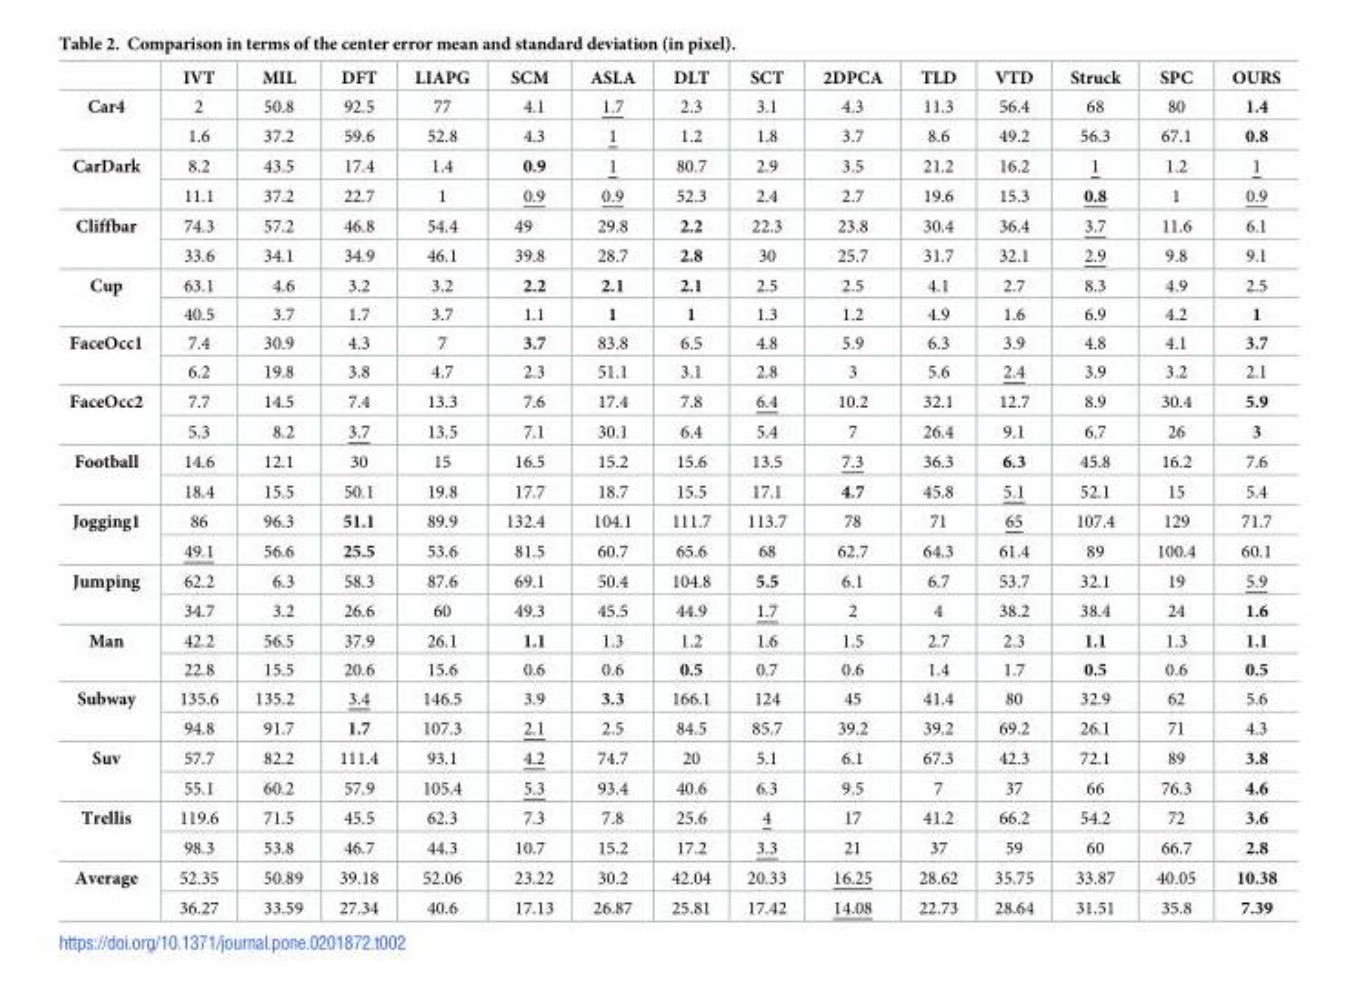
<table><thead><tr><td></td><td>IVT</td><td>MIL</td><td>DFT</td><td>LIAPG</td><td>SCM</td><td>ASLA</td><td>DLT</td><td>SCT</td><td>2DPCA</td><td>TLD</td><td>VTD</td><td>Struck</td><td>SPC</td><td>OURS</td></tr></thead><tbody><tr><td rowspan="2">Car4</td><td>2</td><td>50.8</td><td>92.5</td><td>77</td><td>4.1</td><td>1.7</td><td>2.3</td><td>3.1</td><td>4.3</td><td>11.3</td><td>56.4</td><td>68</td><td>80</td><td>1.4</td></tr><tr><td>1.6</td><td>37.2</td><td>59.6</td><td>52.8</td><td>4.3</td><td>1</td><td>1.2</td><td>1.8</td><td>3.7</td><td>8.6</td><td>49.2</td><td>56.3</td><td>67.1</td><td>0.8</td></tr><tr><td rowspan="2">CarDark</td><td>8.2</td><td>43.5</td><td>17.4</td><td>1.4</td><td>0.9</td><td>1</td><td>80.7</td><td>2.9</td><td>3.5</td><td>21.2</td><td>16.2</td><td>1</td><td>1.2</td><td>1</td></tr><tr><td>11.1</td><td>37.2</td><td>22.7</td><td>1</td><td>0.9</td><td>0.9</td><td>52.3</td><td>2.4</td><td>2.7</td><td>19.6</td><td>15.3</td><td>0.8</td><td>1</td><td>0.9</td></tr><tr><td rowspan="2">Cliffbar</td><td>74.3</td><td>57.2</td><td>46.8</td><td>54.4</td><td>49</td><td>29.8</td><td>2.2</td><td>22.3</td><td>23.8</td><td>30.4</td><td>36.4</td><td>3.7</td><td>11.6</td><td>6.1</td></tr><tr><td>33.6</td><td>34.1</td><td>34.9</td><td>46.1</td><td>39.8</td><td>28.7</td><td>2.8</td><td>30</td><td>25.7</td><td>31.7</td><td>32.1</td><td>2.9</td><td>9.8</td><td>9.1</td></tr><tr><td rowspan="2">Cup</td><td>63.1</td><td>4.6</td><td>3.2</td><td>3.2</td><td>2.2</td><td>2.1</td><td>2.1</td><td>2.5</td><td>2.5</td><td>4.1</td><td>2.7</td><td>8.3</td><td>4.9</td><td>2.5</td></tr><tr><td>40.5</td><td>3.7</td><td>1.7</td><td>3.7</td><td>1.1</td><td>1</td><td>1</td><td>1.3</td><td>1.2</td><td>4.9</td><td>1.6</td><td>6.9</td><td>4.2</td><td>1</td></tr><tr><td rowspan="2">FaceOcc1</td><td>7.4</td><td>30.9</td><td>4.3</td><td>7</td><td>3.7</td><td>83.8</td><td>6.5</td><td>4.8</td><td>5.9</td><td>6.3</td><td>3.9</td><td>4.8</td><td>4.1</td><td>3.7</td></tr><tr><td>6.2</td><td>19.8</td><td>3.8</td><td>4.7</td><td>2.3</td><td>51.1</td><td>3.1</td><td>2.8</td><td>3</td><td>5.6</td><td>2.4</td><td>3.9</td><td>3.2</td><td>2.1</td></tr><tr><td rowspan="2">FaceOcc2</td><td>7.7</td><td>14.5</td><td>7.4</td><td>13.3</td><td>7.6</td><td>17.4</td><td>7.8</td><td>6.4</td><td>10.2</td><td>32.1</td><td>12.7</td><td>8.9</td><td>30.4</td><td>5.9</td></tr><tr><td>5.3</td><td>8.2</td><td>3.7</td><td>13.5</td><td>7.1</td><td>30.1</td><td>6.4</td><td>5.4</td><td>7</td><td>26.4</td><td>9.1</td><td>6.7</td><td>26</td><td>3</td></tr><tr><td rowspan="2">Football</td><td>14.6</td><td>12.1</td><td>30</td><td>15</td><td>16.5</td><td>15.2</td><td>15.6</td><td>13.5</td><td>7.3</td><td>36.3</td><td>6.3</td><td>45.8</td><td>16.2</td><td>7.6</td></tr><tr><td>18.4</td><td>15.5</td><td>50.1</td><td>19.8</td><td>17.7</td><td>18.7</td><td>15.5</td><td>17.1</td><td>4.7</td><td>45.8</td><td>5.1</td><td>52.1</td><td>15</td><td>5.4</td></tr><tr><td rowspan="2">Jogging1</td><td>86</td><td>96.3</td><td>51.1</td><td>89.9</td><td>132.4</td><td>104.1</td><td>111.7</td><td>113.7</td><td>78</td><td>71</td><td>65</td><td>107.4</td><td>129</td><td>71.7</td></tr><tr><td>49.1</td><td>56.6</td><td>25.5</td><td>53.6</td><td>81.5</td><td>60.7</td><td>65.6</td><td>68</td><td>62.7</td><td>64.3</td><td>61.4</td><td>89</td><td>100.4</td><td>60.1</td></tr><tr><td rowspan="2">Jumping</td><td>62.2</td><td>6.3</td><td>58.3</td><td>87.6</td><td>69.1</td><td>50.4</td><td>104.8</td><td>5.5</td><td>6.1</td><td>6.7</td><td>53.7</td><td>32.1</td><td>19</td><td>5.9</td></tr><tr><td>34.7</td><td>3.2</td><td>26.6</td><td>60</td><td>49.3</td><td>45.5</td><td>44.9</td><td>1.7</td><td>2</td><td>4</td><td>38.2</td><td>38.4</td><td>24</td><td>1.6</td></tr><tr><td rowspan="2">Man</td><td>42.2</td><td>56.5</td><td>37.9</td><td>26.1</td><td>1.1</td><td>1.3</td><td>1.2</td><td>1.6</td><td>1.5</td><td>2.7</td><td>2.3</td><td>1.1</td><td>1.3</td><td>1.1</td></tr><tr><td>22.8</td><td>15.5</td><td>20.6</td><td>15.6</td><td>0.6</td><td>0.6</td><td>0.5</td><td>0.7</td><td>0.6</td><td>1.4</td><td>1.7</td><td>0.5</td><td>0.6</td><td>0.5</td></tr><tr><td rowspan="2">Subway</td><td>135.6</td><td>135.2</td><td>3.4</td><td>146.5</td><td>3.9</td><td>3.3</td><td>166.1</td><td>124</td><td>45</td><td>41.4</td><td>80</td><td>32.9</td><td>62</td><td>5.6</td></tr><tr><td>94.8</td><td>91.7</td><td>1.7</td><td>107.3</td><td>2.1</td><td>2.5</td><td>84.5</td><td>85.7</td><td>39.2</td><td>39.2</td><td>69.2</td><td>26.1</td><td>71</td><td>4.3</td></tr><tr><td rowspan="2">Suv</td><td>57.7</td><td>82.2</td><td>111.4</td><td>93.1</td><td>4.2</td><td>74.7</td><td>20</td><td>5.1</td><td>6.1</td><td>67.3</td><td>42.3</td><td>72.1</td><td>89</td><td>3.8</td></tr><tr><td>55.1</td><td>60.2</td><td>57.9</td><td>105.4</td><td>5.3</td><td>93.4</td><td>40.6</td><td>6.3</td><td>9.5</td><td>7</td><td>37</td><td>66</td><td>76.3</td><td>4.6</td></tr><tr><td rowspan="2">Trellis</td><td>119.6</td><td>71.5</td><td>45.5</td><td>62.3</td><td>7.3</td><td>7.8</td><td>25.6</td><td>4</td><td>17</td><td>41.2</td><td>66.2</td><td>54.2</td><td>72</td><td>3.6</td></tr><tr><td>98.3</td><td>53.8</td><td>46.7</td><td>44.3</td><td>10.7</td><td>15.2</td><td>17.2</td><td>3.3</td><td>21</td><td>37</td><td>59</td><td>60</td><td>66.7</td><td>2.8</td></tr><tr><td rowspan="2">Average</td><td>52.35</td><td>50.89</td><td>39.18</td><td>52.06</td><td>23.22</td><td>30.2</td><td>42.04</td><td>20.33</td><td>16.25</td><td>28.62</td><td>35.75</td><td>33.87</td><td>40.05</td><td>10.38</td></tr><tr><td>36.27</td><td>33.59</td><td>27.34</td><td>40.6</td><td>17.13</td><td>26.87</td><td>25.81</td><td>17.42</td><td>14.08</td><td>22.73</td><td>28.64</td><td>31.51</td><td>35.8</td><td>7.39</td></tr></tbody></table>